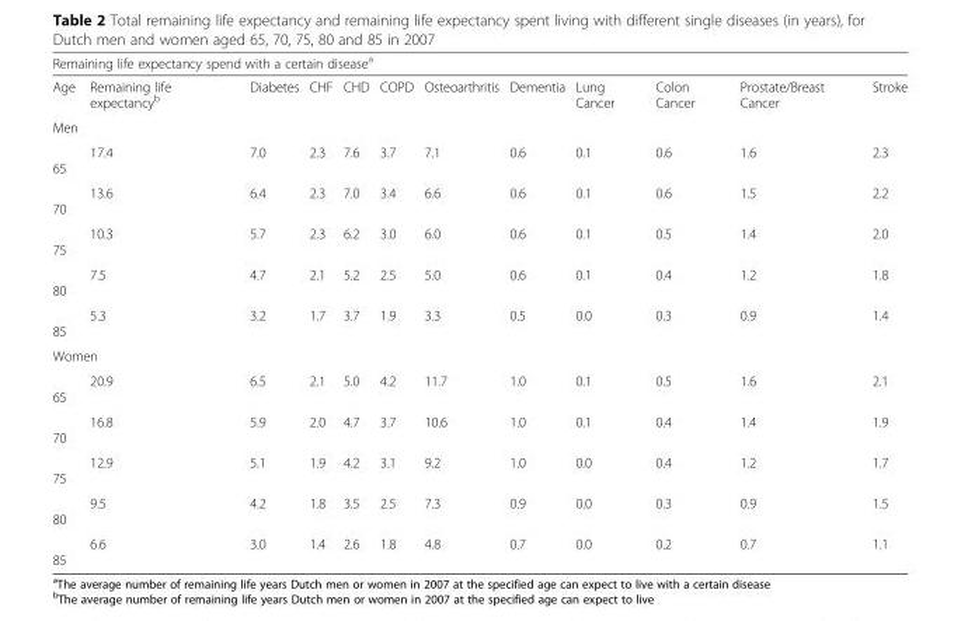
<table><thead><tr><td colspan="12">Remaining life expectancy spend with a certain disease<sup>a</sup></td></tr><tr><td>Age</td><td>Remaining life expectancy<sup>b</sup></td><td>Diabetes</td><td>CHF</td><td>CHD</td><td>COPD</td><td>Osteoarthritis</td><td>Dementia</td><td>Lung Cancer</td><td>Colon Cancer</td><td>Prostate/Breast Cancer</td><td>Stroke</td></tr></thead><tbody><tr><td colspan="12">Men</td></tr><tr><td>65</td><td>17.4</td><td>7.0</td><td>2.3</td><td>7.6</td><td>3.7</td><td>7.1</td><td>0.6</td><td>0.1</td><td>0.6</td><td>1.6</td><td>2.3</td></tr><tr><td>70</td><td>13.6</td><td>6.4</td><td>2.3</td><td>7.0</td><td>3.4</td><td>6.6</td><td>0.6</td><td>0.1</td><td>0.6</td><td>1.5</td><td>2.2</td></tr><tr><td>75</td><td>10.3</td><td>5.7</td><td>2.3</td><td>6.2</td><td>3.0</td><td>6.0</td><td>0.6</td><td>0.1</td><td>0.5</td><td>1.4</td><td>2.0</td></tr><tr><td>80</td><td>7.5</td><td>4.7</td><td>2.1</td><td>5.2</td><td>2.5</td><td>5.0</td><td>0.6</td><td>0.1</td><td>0.4</td><td>1.2</td><td>1.8</td></tr><tr><td>85</td><td>5.3</td><td>3.2</td><td>1.7</td><td>3.7</td><td>1.9</td><td>3.3</td><td>0.5</td><td>0.0</td><td>0.3</td><td>0.9</td><td>1.4</td></tr><tr><td colspan="12">Women</td></tr><tr><td>65</td><td>20.9</td><td>6.5</td><td>2.1</td><td>5.0</td><td>4.2</td><td>11.7</td><td>1.0</td><td>0.1</td><td>0.5</td><td>1.6</td><td>2.1</td></tr><tr><td>70</td><td>16.8</td><td>5.9</td><td>2.0</td><td>4.7</td><td>3.7</td><td>10.6</td><td>1.0</td><td>0.1</td><td>0.4</td><td>1.4</td><td>1.9</td></tr><tr><td>75</td><td>12.9</td><td>5.1</td><td>1.9</td><td>4.2</td><td>3.1</td><td>9.2</td><td>1.0</td><td>0.0</td><td>0.4</td><td>1.2</td><td>1.7</td></tr><tr><td>80</td><td>9.5</td><td>4.2</td><td>1.8</td><td>3.5</td><td>2.5</td><td>7.3</td><td>0.9</td><td>0.0</td><td>0.3</td><td>0.9</td><td>1.5</td></tr><tr><td>85</td><td>6.6</td><td>3.0</td><td>1.4</td><td>2.6</td><td>1.8</td><td>4.8</td><td>0.7</td><td>0.0</td><td>0.2</td><td>0.7</td><td>1.1</td></tr></tbody></table>